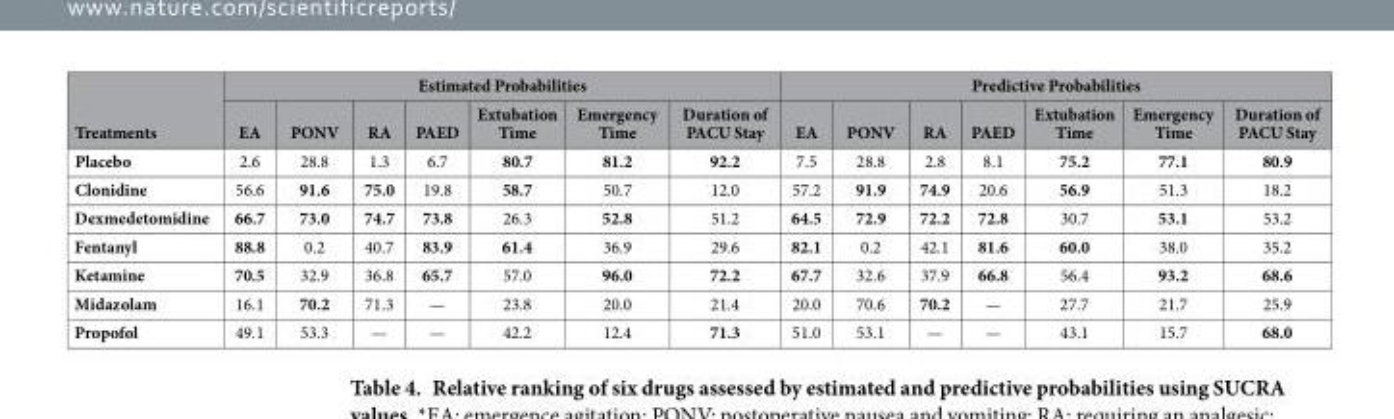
<table><thead><tr><td rowspan="2">Treatments</td><td colspan="7">Estimated Probabilities</td><td colspan="7">Predictive Probabilities</td></tr><tr><td>EA</td><td>PONV</td><td>RA</td><td>PAED</td><td>Extubation Time</td><td>Emergency Time</td><td>Duration of PACU Stay</td><td>EA</td><td>PONV</td><td>RA</td><td>PAED</td><td>Extubation Time</td><td>Emergency Time</td><td>Duration of PACU Stay</td></tr></thead><tbody><tr><td>Placebo</td><td>2.6</td><td>28.8</td><td>1.3</td><td>6.7</td><td>80.7</td><td>81.2</td><td>92.2</td><td>7.5</td><td>28.8</td><td>2.8</td><td>8.1</td><td>75.2</td><td>77.1</td><td>80.9</td></tr><tr><td>Clonidine</td><td>56.6</td><td>91.6</td><td>75.0</td><td>19.8</td><td>58.7</td><td>50.7</td><td>12.0</td><td>57.2</td><td>91.9</td><td>74.9</td><td>20.6</td><td>56.9</td><td>51.3</td><td>18.2</td></tr><tr><td>Dexmedetomidine</td><td>66.7</td><td>73.0</td><td>74.7</td><td>73.8</td><td>26.3</td><td>52.8</td><td>51.2</td><td>64.5</td><td>72.9</td><td>72.2</td><td>72.8</td><td>30.7</td><td>53.1</td><td>53.2</td></tr><tr><td>Fentanyl</td><td>88.8</td><td>0.2</td><td>40.7</td><td>83.9</td><td>61.4</td><td>36.9</td><td>29.6</td><td>82.1</td><td>0.2</td><td>42.1</td><td>81.6</td><td>60.0</td><td>38.0</td><td>35.2</td></tr><tr><td>Ketamine</td><td>70.5</td><td>32.9</td><td>36.8</td><td>65.7</td><td>57.0</td><td>96.0</td><td>72.2</td><td>67.7</td><td>32.6</td><td>37.9</td><td>66.8</td><td>56.4</td><td>93.2</td><td>68.6</td></tr><tr><td>Midazolam</td><td>16.1</td><td>70.2</td><td>71.3</td><td>—</td><td>23.8</td><td>20.0</td><td>21.4</td><td>20.0</td><td>70.6</td><td>70.2</td><td>—</td><td>27.7</td><td>21.7</td><td>25.9</td></tr><tr><td>Propofol</td><td>49.1</td><td>53.3</td><td>—</td><td>—</td><td>42.2</td><td>12.4</td><td>71.3</td><td>51.0</td><td>53.1</td><td>—</td><td>—</td><td>43.1</td><td>15.7</td><td>68.0</td></tr></tbody></table>